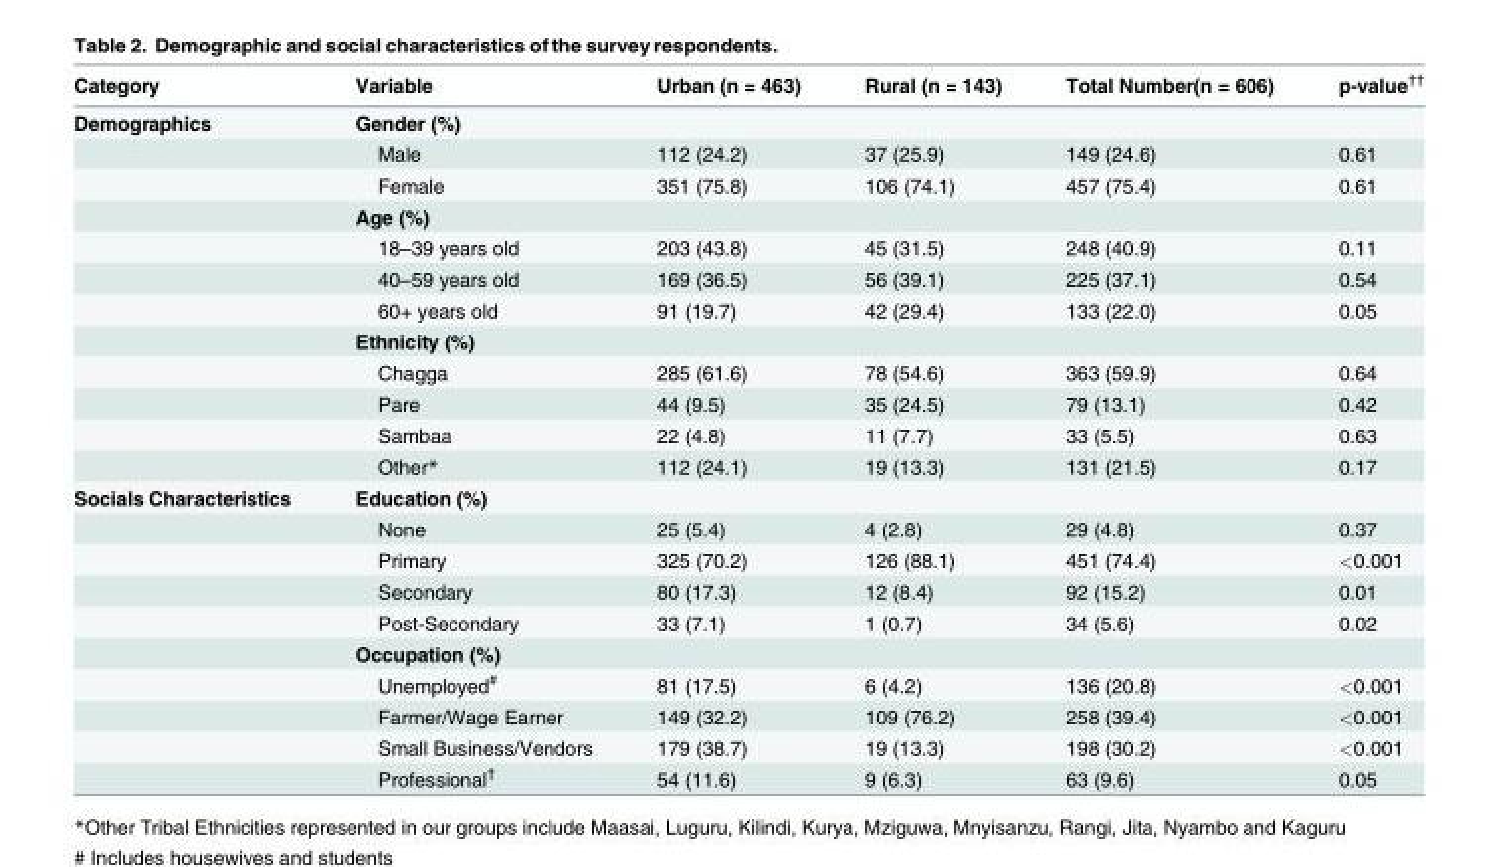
<table><thead><tr><td>Category</td><td>Variable</td><td>Urban (n = 463)</td><td>Rural (n = 143)</td><td>Total Number(n = 606)</td><td>p-value<sup>††</sup></td></tr></thead><tbody><tr><td rowspan="12">Demographics</td><td>Gender (%)</td><td></td><td></td><td></td><td></td></tr><tr><td>Male</td><td>112 (24.2)</td><td>37 (25.9)</td><td>149 (24.6)</td><td>0.61</td></tr><tr><td>Female</td><td>351 (75.8)</td><td>106 (74.1)</td><td>457 (75.4)</td><td>0.61</td></tr><tr><td>Age (%)</td><td></td><td></td><td></td><td></td></tr><tr><td>18–39 years old</td><td>203 (43.8)</td><td>45 (31.5)</td><td>248 (40.9)</td><td>0.11</td></tr><tr><td>40–59 years old</td><td>169 (36.5)</td><td>56 (39.1)</td><td>225 (37.1)</td><td>0.54</td></tr><tr><td>60+ years old</td><td>91 (19.7)</td><td>42 (29.4)</td><td>133 (22.0)</td><td>0.05</td></tr><tr><td>Ethnicity (%)</td><td></td><td></td><td></td><td></td></tr><tr><td>Chagga</td><td>285 (61.6)</td><td>78 (54.6)</td><td>363 (59.9)</td><td>0.64</td></tr><tr><td>Pare</td><td>44 (9.5)</td><td>35 (24.5)</td><td>79 (13.1)</td><td>0.42</td></tr><tr><td>Sambaa</td><td>22 (4.8)</td><td>11 (7.7)</td><td>33 (5.5)</td><td>0.63</td></tr><tr><td>Other*</td><td>112 (24.1)</td><td>19 (13.3)</td><td>131 (21.5)</td><td>0.17</td></tr><tr><td rowspan="10">Socials Characteristics</td><td>Education (%)</td><td></td><td></td><td></td><td></td></tr><tr><td>None</td><td>25 (5.4)</td><td>4 (2.8)</td><td>29 (4.8)</td><td>0.37</td></tr><tr><td>Primary</td><td>325 (70.2)</td><td>126 (88.1)</td><td>451 (74.4)</td><td>&lt;0.001</td></tr><tr><td>Secondary</td><td>80 (17.3)</td><td>12 (8.4)</td><td>92 (15.2)</td><td>0.01</td></tr><tr><td>Post-Secondary</td><td>33 (7.1)</td><td>1 (0.7)</td><td>34 (5.6)</td><td>0.02</td></tr><tr><td>Occupation (%)</td><td></td><td></td><td></td><td></td></tr><tr><td>Unemployed<sup>#</sup></td><td>81 (17.5)</td><td>6 (4.2)</td><td>136 (20.8)</td><td>&lt;0.001</td></tr><tr><td>Farmer/Wage Earner</td><td>149 (32.2)</td><td>109 (76.2)</td><td>258 (39.4)</td><td>&lt;0.001</td></tr><tr><td>Small Business/Vendors</td><td>179 (38.7)</td><td>19 (13.3)</td><td>198 (30.2)</td><td>&lt;0.001</td></tr><tr><td>Professional<sup>†</sup></td><td>54 (11.6)</td><td>9 (6.3)</td><td>63 (9.6)</td><td>0.05</td></tr></tbody></table>